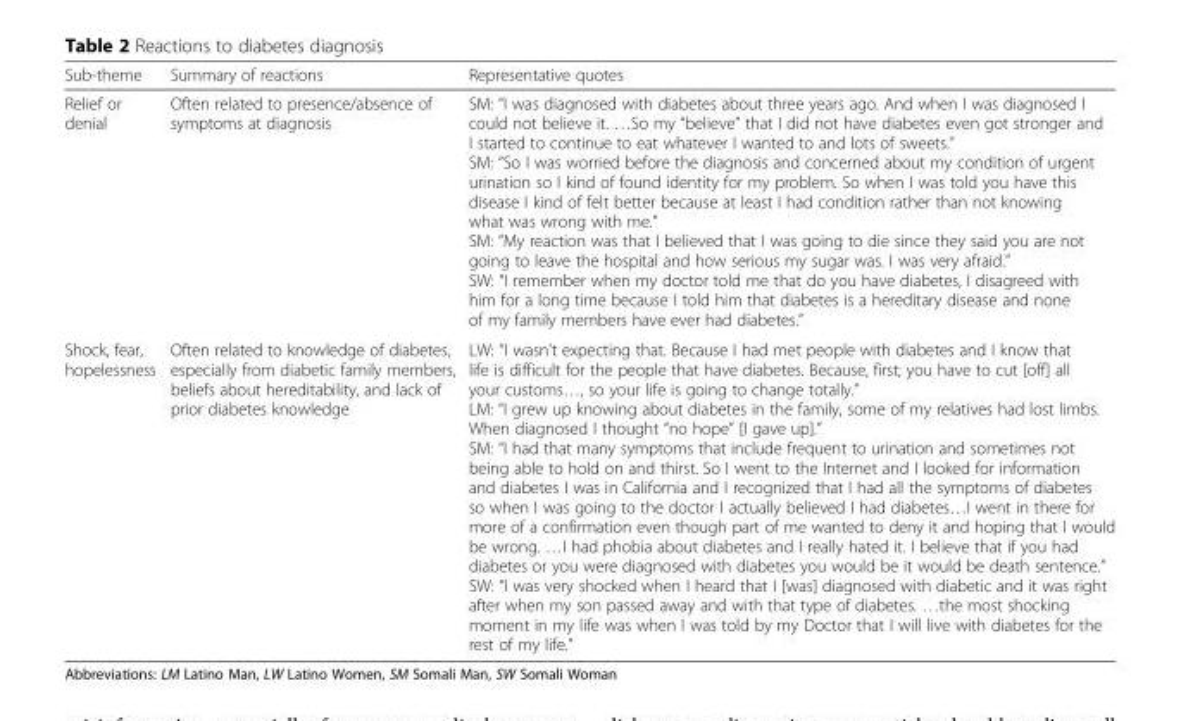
<table><thead><tr><td>Sub-theme</td><td>Summary of reactions</td><td>Representative quotes</td></tr></thead><tbody><tr><td>Relief or denial</td><td>Often related to presence/absence of symptoms at diagnosis</td><td>SM: “I was diagnosed with diabetes about three years ago. And when I was diagnosed I could not believe it. …So my “believe” that I did not have diabetes even got stronger and I started to continue to eat whatever I wanted to and lots of sweets.” SM: “So I was worried before the diagnosis and concerned about my condition of urgent urination so I kind of found identity for my problem. So when I was told you have this disease I kind of felt better because at least I had condition rather than not knowing what was wrong with me.” SM: “My reaction was that I believed that I was going to die since they said you are not going to leave the hospital and how serious my sugar was. I was very afraid.” SW: “I remember when my doctor told me that do you have diabetes, I disagreed with him for a long time because I told him that diabetes is a hereditary disease and none of my family members have ever had diabetes.”</td></tr><tr><td>Shock, fear, hopelessness</td><td>Often related to knowledge of diabetes, especially from diabetic family members, beliefs about hereditability, and lack of prior diabetes knowledge</td><td>LW: “I wasn’t expecting that. Because I had met people with diabetes and I know that life is difficult for the people that have diabetes. Because, first; you have to cut [off] all your customs…, so your life is going to change totally.” LM: “I grew up knowing about diabetes in the family, some of my relatives had lost limbs. When diagnosed I thought “no hope” [I gave up].” SM: “I had that many symptoms that include frequent to urination and sometimes not being able to hold on and thirst. So I went to the Internet and I looked for information and diabetes I was in California and I recognized that I had all the symptoms of diabetes so when I was going to the doctor I actually believed I had diabetes…I went in there for more of a confirmation even though part of me wanted to deny it and hoping that I would be wrong. …I had phobia about diabetes and I really hated it. I believe that if you had diabetes or you were diagnosed with diabetes you would be it would be death sentence.” SW: “I was very shocked when I heard that I [was] diagnosed with diabetic and it was right after when my son passed away and with that type of diabetes. …the most shocking moment in my life was when I was told by my Doctor that I will live with diabetes for the rest of my life.”</td></tr></tbody></table>